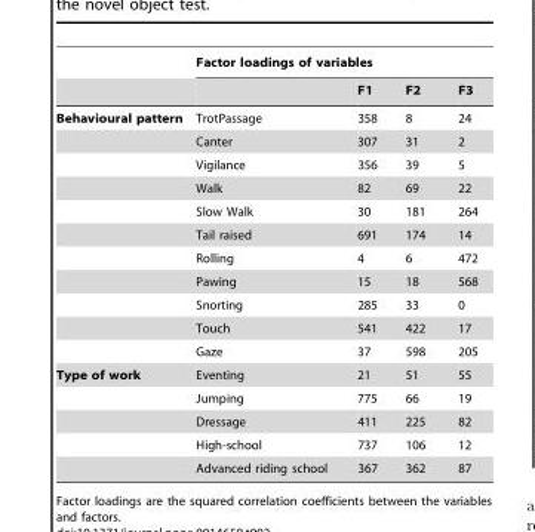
<table><thead><tr><td rowspan="2"></td><td colspan="4">Factor loadings of variables</td></tr><tr><td></td><td>F1</td><td>F2</td><td>F3</td></tr></thead><tbody><tr><td rowspan="11">Behavioural pattern</td><td>TrotPassage</td><td>358</td><td>8</td><td>24</td></tr><tr><td>Canter</td><td>307</td><td>31</td><td>2</td></tr><tr><td>Vigilance</td><td>356</td><td>39</td><td>5</td></tr><tr><td>Walk</td><td>82</td><td>69</td><td>22</td></tr><tr><td>Slow Walk</td><td>30</td><td>181</td><td>264</td></tr><tr><td>Tail raised</td><td>691</td><td>174</td><td>14</td></tr><tr><td>Rolling</td><td>4</td><td>6</td><td>472</td></tr><tr><td>Pawing</td><td>15</td><td>18</td><td>568</td></tr><tr><td>Snorting</td><td>285</td><td>33</td><td>0</td></tr><tr><td>Touch</td><td>541</td><td>422</td><td>17</td></tr><tr><td>Gaze</td><td>37</td><td>598</td><td>205</td></tr><tr><td rowspan="5">Type of work</td><td>Eventing</td><td>21</td><td>51</td><td>55</td></tr><tr><td>Jumping</td><td>775</td><td>66</td><td>19</td></tr><tr><td>Dressage</td><td>411</td><td>225</td><td>82</td></tr><tr><td>High-school</td><td>737</td><td>106</td><td>12</td></tr><tr><td>Advanced riding school</td><td>367</td><td>362</td><td>87</td></tr></tbody></table>